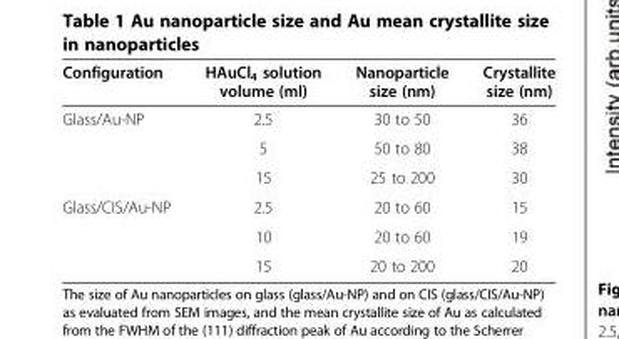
<table><thead><tr><td>Configuration</td><td>HAuCl<sub>4</sub> solution volume (ml)</td><td>Nanoparticle size (nm)</td><td>Crystallite size (nm)</td></tr></thead><tbody><tr><td rowspan="3">Glass/Au-NP</td><td>2.5</td><td>30 to 50</td><td>36</td></tr><tr><td>5</td><td>50 to 80</td><td>38</td></tr><tr><td>15</td><td>25 to 200</td><td>30</td></tr><tr><td rowspan="3">Glass/CIS/Au-NP</td><td>2.5</td><td>20 to 60</td><td>15</td></tr><tr><td>10</td><td>20 to 60</td><td>19</td></tr><tr><td>15</td><td>20 to 200</td><td>20</td></tr></tbody></table>